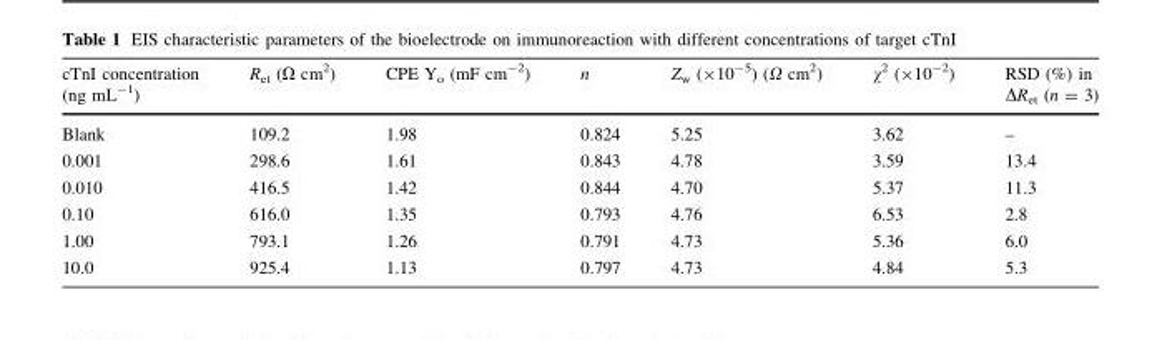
<table><thead><tr><td>cTnI concentration (ng mL<sup>-1</sup>)</td><td>R<sub>et</sub> (Ω cm<sup>2</sup>)</td><td>CPE Y<sub>o</sub> (mF cm<sup>-2</sup>)</td><td>n</td><td>Z<sub>w</sub> (×10<sup>-5</sup>) (Ω cm<sup>2</sup>)</td><td>χ<sup>2</sup> (×10<sup>-2</sup>)</td><td>RSD (%) in ∆R<sub>et</sub> (n = 3)</td></tr></thead><tbody><tr><td>Blank</td><td>109.2</td><td>1.98</td><td>0.824</td><td>5.25</td><td>3.62</td><td>–</td></tr><tr><td>0.001</td><td>298.6</td><td>1.61</td><td>0.843</td><td>4.78</td><td>3.59</td><td>13.4</td></tr><tr><td>0.010</td><td>416.5</td><td>1.42</td><td>0.844</td><td>4.70</td><td>5.37</td><td>11.3</td></tr><tr><td>0.10</td><td>616.0</td><td>1.35</td><td>0.793</td><td>4.76</td><td>6.53</td><td>2.8</td></tr><tr><td>1.00</td><td>793.1</td><td>1.26</td><td>0.791</td><td>4.73</td><td>5.36</td><td>6.0</td></tr><tr><td>10.0</td><td>925.4</td><td>1.13</td><td>0.797</td><td>4.73</td><td>4.84</td><td>5.3</td></tr></tbody></table>